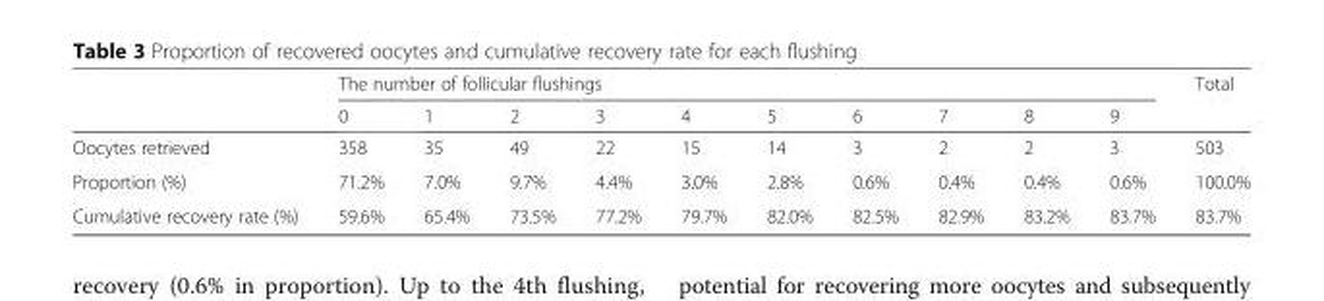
<table><thead><tr><td rowspan="2"></td><td colspan="10">The number of follicular flushings</td><td rowspan="2">Total</td></tr><tr><td>0</td><td>1</td><td>2</td><td>3</td><td>4</td><td>5</td><td>6</td><td>7</td><td>8</td><td>9</td></tr></thead><tbody><tr><td>Oocytes retrieved</td><td>358</td><td>35</td><td>49</td><td>22</td><td>15</td><td>14</td><td>3</td><td>2</td><td>2</td><td>3</td><td>503</td></tr><tr><td>Proportion (%)</td><td>71.2%</td><td>7.0%</td><td>9.7%</td><td>4.4%</td><td>3.0%</td><td>2.8%</td><td>0.6%</td><td>0.4%</td><td>0.4%</td><td>0.6%</td><td>100.0%</td></tr><tr><td>Cumulative recovery rate (%)</td><td>59.6%</td><td>65.4%</td><td>73.5%</td><td>77.2%</td><td>79.7%</td><td>82.0%</td><td>82.5%</td><td>82.9%</td><td>83.2%</td><td>83.7%</td><td>83.7%</td></tr></tbody></table>